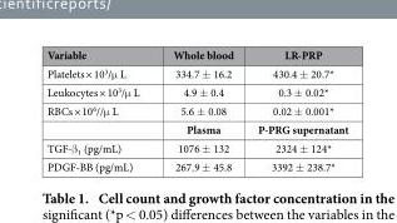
<table><thead><tr><td>Variable</td><td>Whole blood</td><td>LR-PRP</td></tr></thead><tbody><tr><td>Platelets × 10<sup>3</sup>/μ L</td><td>334.7 ± 16.2</td><td>430.4 ± 20.7*</td></tr><tr><td>Leukocytes × 10<sup>3</sup>/μ L</td><td>4.9 ± 0.4</td><td>0.3 ± 0.02*</td></tr><tr><td rowspan="2">RBCs × 10<sup>6</sup>//μ L</td><td>5.6 ± 0.08</td><td>0.02 ± 0.001*</td></tr><tr><td>Plasma</td><td>P-PRG supernatant</td></tr><tr><td>TGF-β <sub>1</sub> (pg/mL)</td><td>1076 ± 132</td><td>2324 ± 124*</td></tr><tr><td>PDGF-BB (pg/mL)</td><td>267.9 ± 45.8</td><td>3392 ± 238.7*</td></tr></tbody></table>